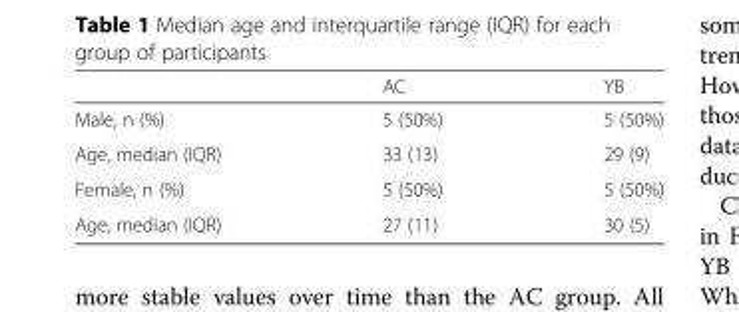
<table><thead><tr><td></td><td>AC</td><td>YB</td></tr></thead><tbody><tr><td>Male, n (%)</td><td>5 (50%)</td><td>5 (50%)</td></tr><tr><td>Age, median (IQR)</td><td>33 (13)</td><td>29 (9)</td></tr><tr><td>Female, n (%)</td><td>5 (50%)</td><td>5 (50%)</td></tr><tr><td>Age, median (IQR)</td><td>27 (11)</td><td>30 (5)</td></tr></tbody></table>